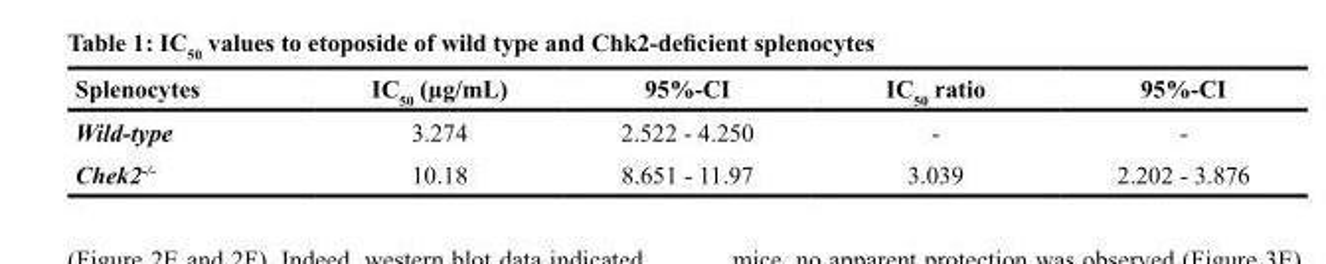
<table><thead><tr><td>Splenocytes</td><td>IC<sub>50</sub> (µg/mL)</td><td>95%-CI</td><td>IC<sub>50</sub> ratio</td><td>95%-CI</td></tr></thead><tbody><tr><td>Wild-type</td><td>3.274</td><td>2.522 - 4.250</td><td>-</td><td>-</td></tr><tr><td>Chek2<sup>-/-</sup></td><td>10.18</td><td>8.651 - 11.97</td><td>3.039</td><td>2.202 - 3.876</td></tr></tbody></table>